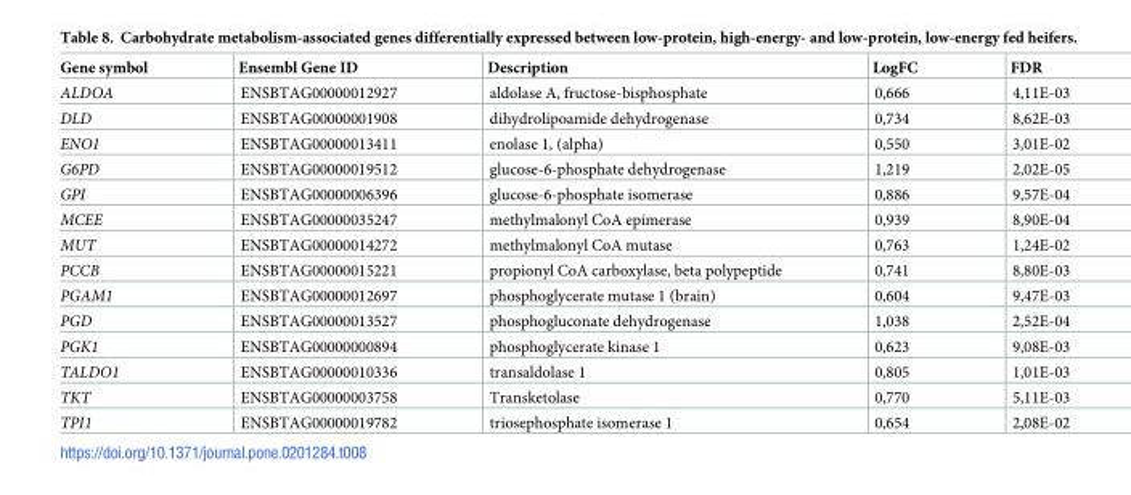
<table><thead><tr><td>Gene symbol</td><td>Ensembl Gene ID</td><td>Description</td><td>LogFC</td><td>FDR</td></tr></thead><tbody><tr><td>ALDOA</td><td>ENSBTAG00000012927</td><td>aldolase A, fructose-bisphosphate</td><td>0,666</td><td>4,11E-03</td></tr><tr><td>DLD</td><td>ENSBTAG00000001908</td><td>dihydrolipoamide dehydrogenase</td><td>0,734</td><td>8,62E-03</td></tr><tr><td>ENO1</td><td>ENSBTAG00000013411</td><td>enolase 1, (alpha)</td><td>0,550</td><td>3,01E-02</td></tr><tr><td>G6PD</td><td>ENSBTAG00000019512</td><td>glucose-6-phosphate dehydrogenase</td><td>1,219</td><td>2,02E-05</td></tr><tr><td>GPI</td><td>ENSBTAG00000006396</td><td>glucose-6-phosphate isomerase</td><td>0,886</td><td>9,57E-04</td></tr><tr><td>MCEE</td><td>ENSBTAG00000035247</td><td>methylmalonyl CoA epimerase</td><td>0,939</td><td>8,90E-04</td></tr><tr><td>MUT</td><td>ENSBTAG00000014272</td><td>methylmalonyl CoA mutase</td><td>0,763</td><td>1,24E-02</td></tr><tr><td>PCCB</td><td>ENSBTAG00000015221</td><td>propionyl CoA carboxylase, beta polypeptide</td><td>0,741</td><td>8,80E-03</td></tr><tr><td>PGAM1</td><td>ENSBTAG00000012697</td><td>phosphoglycerate mutase 1 (brain)</td><td>0,604</td><td>9,47E-03</td></tr><tr><td>PGD</td><td>ENSBTAG00000013527</td><td>phosphogluconate dehydrogenase</td><td>1,038</td><td>2,52E-04</td></tr><tr><td>PGK1</td><td>ENSBTAG00000000894</td><td>phosphoglycerate kinase 1</td><td>0,623</td><td>9,08E-03</td></tr><tr><td>TALDO1</td><td>ENSBTAG00000010336</td><td>transaldolase 1</td><td>0,805</td><td>1,01E-03</td></tr><tr><td>TKT</td><td>ENSBTAG00000003758</td><td>Transketolase</td><td>0,770</td><td>5,11E-03</td></tr><tr><td>TPI1</td><td>ENSBTAG00000019782</td><td>triosephosphate isomerase 1</td><td>0,654</td><td>2,08E-02</td></tr></tbody></table>